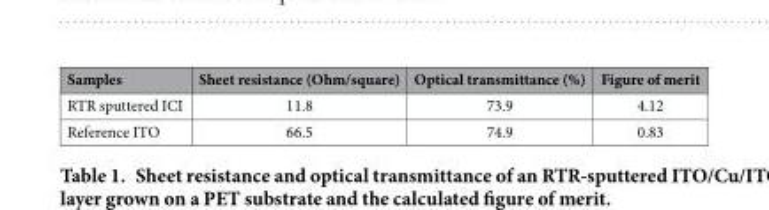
<table><thead><tr><td>Samples</td><td>Sheet resistance (Ohm/square)</td><td>Optical transmittance (%)</td><td>Figure of merit</td></tr></thead><tbody><tr><td>RTR sputtered ICI</td><td>11.8</td><td>73.9</td><td>4.12</td></tr><tr><td>Reference ITO</td><td>66.5</td><td>74.9</td><td>0.83</td></tr></tbody></table>